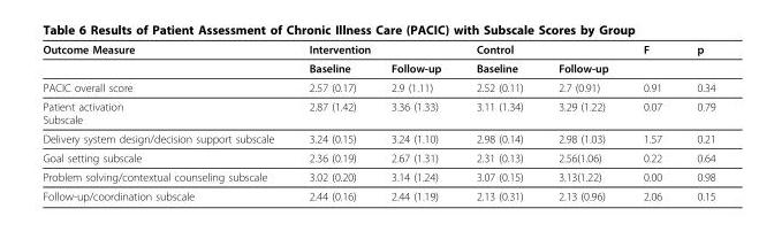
<table><thead><tr><td rowspan="2">Outcome Measure</td><td colspan="2">Intervention</td><td colspan="2">Control</td><td rowspan="2">F</td><td rowspan="2">p</td></tr><tr><td>Baseline</td><td>Follow-up</td><td>Baseline</td><td>Follow-up</td></tr></thead><tbody><tr><td>PACIC overall score</td><td>2.57 (0.17)</td><td>2.9 (1.11)</td><td>2.52 (0.11)</td><td>2.7 (0.91)</td><td>0.91</td><td>0.34</td></tr><tr><td>Patient activation Subscale</td><td>2.87 (1.42)</td><td>3.36 (1.33)</td><td>3.11 (1.34)</td><td>3.29 (1.22)</td><td>0.07</td><td>0.79</td></tr><tr><td>Delivery system design/decision support subscale</td><td>3.24 (0.15)</td><td>3.24 (1.10)</td><td>2.98 (0.14)</td><td>2.98 (1.03)</td><td>1.57</td><td>0.21</td></tr><tr><td>Goal setting subscale</td><td>2.36 (0.19)</td><td>2.67 (1.31)</td><td>2.31 (0.13)</td><td>2.56(1.06)</td><td>0.22</td><td>0.64</td></tr><tr><td>Problem solving/contextual counseling subscale</td><td>3.02 (0.20)</td><td>3.14 (1.24)</td><td>3.07 (0.15)</td><td>3.13(1.22)</td><td>0.00</td><td>0.98</td></tr><tr><td>Follow-up/coordination subscale</td><td>2.44 (0.16)</td><td>2.44 (1.19)</td><td>2.13 (0.31)</td><td>2.13 (0.96)</td><td>2.06</td><td>0.15</td></tr></tbody></table>